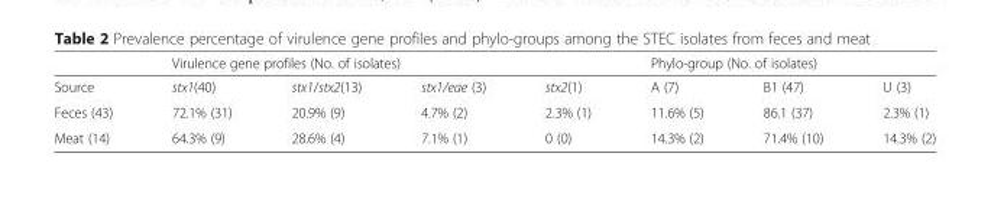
<table><thead><tr><td rowspan="2">Source</td><td colspan="4">Virulence gene profiles (No. of isolates)</td><td colspan="3">Phylo-group (No. of isolates)</td></tr><tr><td>stx1(40)</td><td>stx1/stx2(13)</td><td>stx1/eae (3)</td><td>stx2(1)</td><td>A (7)</td><td>B1 (47)</td><td>U (3)</td></tr></thead><tbody><tr><td>Feces (43)</td><td>72.1% (31)</td><td>20.9% (9)</td><td>4.7% (2)</td><td>2.3% (1)</td><td>11.6% (5)</td><td>86.1 (37)</td><td>2.3% (1)</td></tr><tr><td>Meat (14)</td><td>64.3% (9)</td><td>28.6% (4)</td><td>7.1% (1)</td><td>0 (0)</td><td>14.3% (2)</td><td>71.4% (10)</td><td>14.3% (2)</td></tr></tbody></table>